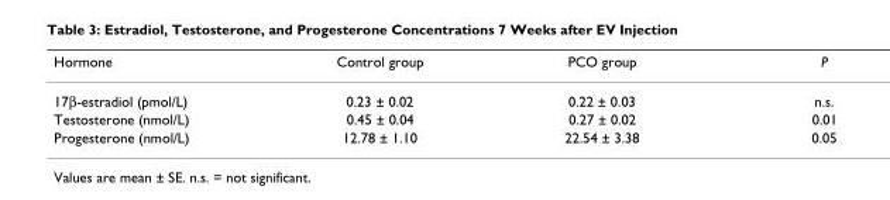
<table><thead><tr><td>Hormone</td><td>Control group</td><td>PCO group</td><td>P</td></tr></thead><tbody><tr><td>17β-estradiol (pmol/L)</td><td>0.23 ± 0.02</td><td>0.22 ± 0.03</td><td>n.s.</td></tr><tr><td>Testosterone (nmol/L)</td><td>0.45 ± 0.04</td><td>0.27 ± 0.02</td><td>0.01</td></tr><tr><td>Progesterone (nmol/L)</td><td>12.78 ± 1.10</td><td>22.54 ± 3.38</td><td>0.05</td></tr></tbody></table>